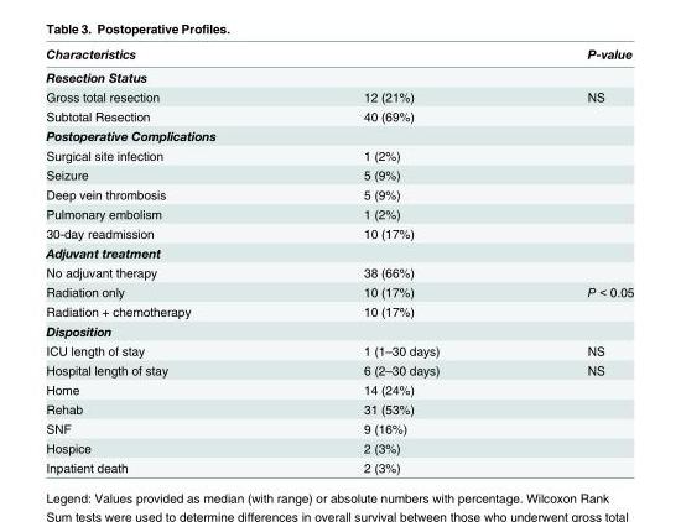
<table><thead><tr><td>Characteristics</td><td></td><td>P-value</td></tr></thead><tbody><tr><td colspan="3">Resection Status</td></tr><tr><td>Gross total resection</td><td>12 (21%)</td><td>NS</td></tr><tr><td>Subtotal Resection</td><td>40 (69%)</td><td></td></tr><tr><td colspan="3">Postoperative Complications</td></tr><tr><td>Surgical site infection</td><td>1 (2%)</td><td></td></tr><tr><td>Seizure</td><td>5 (9%)</td><td></td></tr><tr><td>Deep vein thrombosis</td><td>5 (9%)</td><td></td></tr><tr><td>Pulmonary embolism</td><td>1 (2%)</td><td></td></tr><tr><td>30-day readmission</td><td>10 (17%)</td><td></td></tr><tr><td colspan="3">Adjuvant treatment</td></tr><tr><td>No adjuvant therapy</td><td>38 (66%)</td><td></td></tr><tr><td>Radiation only</td><td>10 (17%)</td><td>P &lt; 0.05</td></tr><tr><td>Radiation + chemotherapy</td><td>10 (17%)</td><td></td></tr><tr><td colspan="3">Disposition</td></tr><tr><td>ICU length of stay</td><td>1 (1–30 days)</td><td>NS</td></tr><tr><td>Hospital length of stay</td><td>6 (2–30 days)</td><td>NS</td></tr><tr><td>Home</td><td>14 (24%)</td><td></td></tr><tr><td>Rehab</td><td>31 (53%)</td><td></td></tr><tr><td>SNF</td><td>9 (16%)</td><td></td></tr><tr><td>Hospice</td><td>2 (3%)</td><td></td></tr><tr><td>Inpatient death</td><td>2 (3%)</td><td></td></tr></tbody></table>